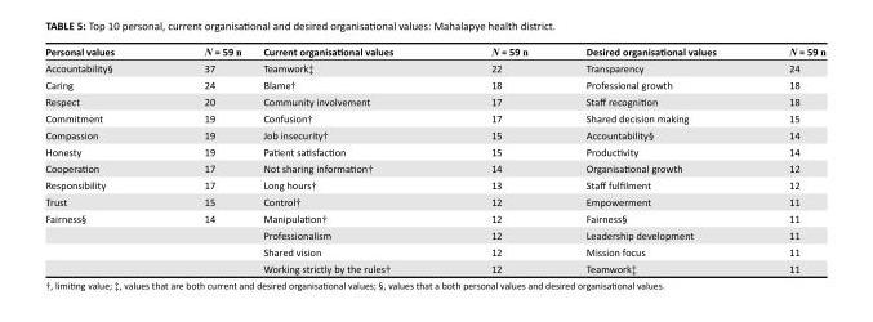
<table><thead><tr><td>Personal values</td><td>N = 59 n</td><td>Current organisational values</td><td>N = 59 n</td><td>Desired organisational values</td><td>N = 59 n</td></tr></thead><tbody><tr><td>Accountability§</td><td>37</td><td>Teamwork‡</td><td>22</td><td>Transparency</td><td>24</td></tr><tr><td>Caring</td><td>24</td><td>Blame†</td><td>18</td><td>Professional growth</td><td>18</td></tr><tr><td>Respect</td><td>20</td><td>Community involvement</td><td>17</td><td>Staff recognition</td><td>18</td></tr><tr><td>Commitment</td><td>19</td><td>Confusion†</td><td>17</td><td>Shared decision making</td><td>15</td></tr><tr><td>Compassion</td><td>19</td><td>Job insecurity†</td><td>15</td><td>Accountability§</td><td>14</td></tr><tr><td>Honesty</td><td>19</td><td>Patient satisfaction</td><td>15</td><td>Productivity</td><td>14</td></tr><tr><td>Cooperation</td><td>17</td><td>Not sharing information†</td><td>14</td><td>Organisational growth</td><td>12</td></tr><tr><td>Responsibility</td><td>17</td><td>Long hours†</td><td>13</td><td>Staff fulfilment</td><td>12</td></tr><tr><td>Trust</td><td>15</td><td>Control†</td><td>12</td><td>Empowerment</td><td>11</td></tr><tr><td rowspan="4">Fairness§</td><td>14</td><td>Manipulation†</td><td>12</td><td>Fairness§</td><td>11</td></tr><tr><td></td><td>Professionalism</td><td>12</td><td>Leadership development</td><td>11</td></tr><tr><td></td><td>Shared vision</td><td>12</td><td>Mission focus</td><td>11</td></tr><tr><td></td><td>Working strictly by the rules†</td><td>12</td><td>Teamwork‡</td><td>11</td></tr></tbody></table>